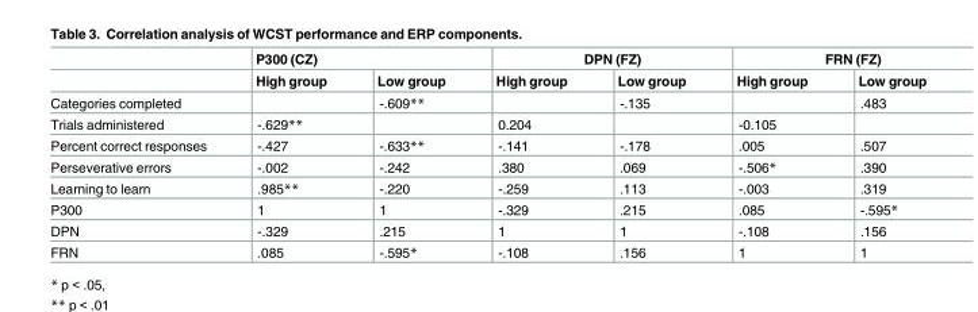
<table><thead><tr><td rowspan="2"></td><td colspan="2">P300 (CZ)</td><td colspan="2">DPN (FZ)</td><td colspan="2">FRN (FZ)</td></tr><tr><td>High group</td><td>Low group</td><td>High group</td><td>Low group</td><td>High group</td><td>Low group</td></tr></thead><tbody><tr><td>Categories completed</td><td></td><td>-.609**</td><td></td><td>-.135</td><td></td><td>.483</td></tr><tr><td>Trials administered</td><td>-.629**</td><td></td><td>0.204</td><td></td><td>-0.105</td><td></td></tr><tr><td>Percent correct responses</td><td>-.427</td><td>-.633**</td><td>-.141</td><td>-.178</td><td>.005</td><td>.507</td></tr><tr><td>Perseverative errors</td><td>-.002</td><td>-.242</td><td>.380</td><td>.069</td><td>-.506*</td><td>.390</td></tr><tr><td>Learning to learn</td><td>.985**</td><td>-.220</td><td>-.259</td><td>.113</td><td>-.003</td><td>.319</td></tr><tr><td>P300</td><td>1</td><td>1</td><td>-.329</td><td>.215</td><td>.085</td><td>-.595*</td></tr><tr><td>DPN</td><td>-.329</td><td>.215</td><td>1</td><td>1</td><td>-.108</td><td>.156</td></tr><tr><td>FRN</td><td>.085</td><td>-.595*</td><td>-.108</td><td>.156</td><td>1</td><td>1</td></tr></tbody></table>